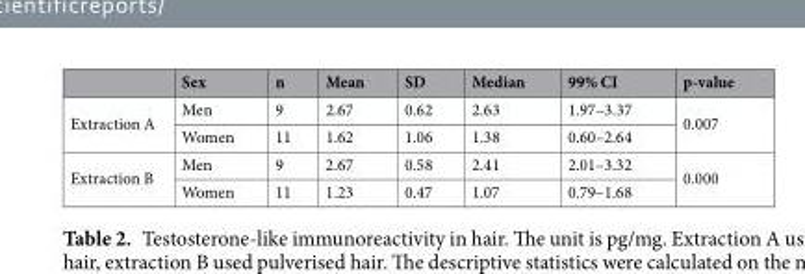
<table><thead><tr><td></td><td>Sex</td><td>n</td><td>Mean</td><td>SD</td><td>Median</td><td>99% CI</td><td>p-value</td></tr></thead><tbody><tr><td rowspan="2">Extraction A</td><td>Men</td><td>9</td><td>2.67</td><td>0.62</td><td>2.63</td><td>1.97–3.37</td><td rowspan="2">0.007</td></tr><tr><td>Women</td><td>11</td><td>1.62</td><td>1.06</td><td>1.38</td><td>0.60–2.64</td></tr><tr><td rowspan="2">Extraction B</td><td>Men</td><td>9</td><td>2.67</td><td>0.58</td><td>2.41</td><td>2.01–3.32</td><td rowspan="2">0.000</td></tr><tr><td>Women</td><td>11</td><td>1.23</td><td>0.47</td><td>1.07</td><td>0.79–1.68</td></tr></tbody></table>